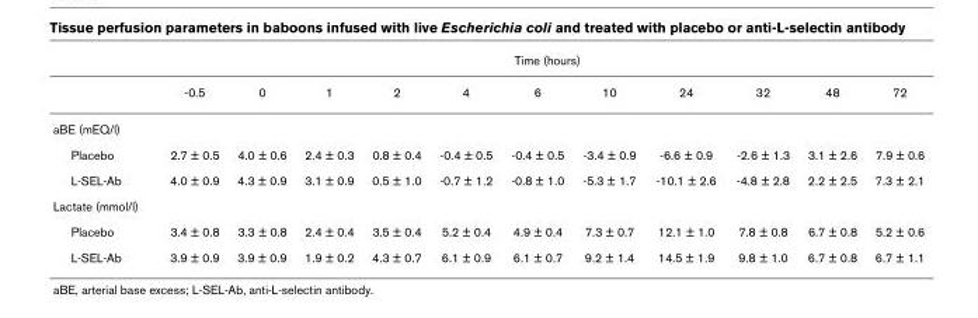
<table><thead><tr><td rowspan="2"></td><td colspan="11">Time (hours)</td></tr><tr><td>-0.5</td><td>0</td><td>1</td><td>2</td><td>4</td><td>6</td><td>10</td><td>24</td><td>32</td><td>48</td><td>72</td></tr></thead><tbody><tr><td colspan="12">aBE (mEQ/l)</td></tr><tr><td>Placebo</td><td>2.7 ± 0.5</td><td>4.0 ± 0.6</td><td>2.4 ± 0.3</td><td>0.8 ± 0.4</td><td>-0.4 ± 0.5</td><td>-0.4 ± 0.5</td><td>-3.4 ± 0.9</td><td>-6.6 ± 0.9</td><td>-2.6 ± 1.3</td><td>3.1 ± 2.6</td><td>7.9 ± 0.6</td></tr><tr><td>L-SEL-Ab</td><td>4.0 ± 0.9</td><td>4.3 ± 0.9</td><td>3.1 ± 0.9</td><td>0.5 ± 1.0</td><td>-0.7 ± 1.2</td><td>-0.8 ± 1.0</td><td>-5.3 ± 1.7</td><td>-10.1 ± 2.6</td><td>-4.8 ± 2.8</td><td>2.2 ± 2.5</td><td>7.3 ± 2.1</td></tr><tr><td colspan="12">Lactate (mmol/l)</td></tr><tr><td>Placebo</td><td>3.4 ± 0.8</td><td>3.3 ± 0.8</td><td>2.4 ± 0.4</td><td>3.5 ± 0.4</td><td>5.2 ± 0.4</td><td>4.9 ± 0.4</td><td>7.3 ± 0.7</td><td>12.1 ± 1.0</td><td>7.8 ± 0.8</td><td>6.7 ± 0.8</td><td>5.2 ± 0.6</td></tr><tr><td>L-SEL-Ab</td><td>3.9 ± 0.9</td><td>3.9 ± 0.9</td><td>1.9 ± 0.2</td><td>4.3 ± 0.7</td><td>6.1 ± 0.9</td><td>6.1 ± 0.7</td><td>9.2 ± 1.4</td><td>14.5 ± 1.9</td><td>9.8 ± 1.0</td><td>6.7 ± 0.8</td><td>6.7 ± 1.1</td></tr></tbody></table>